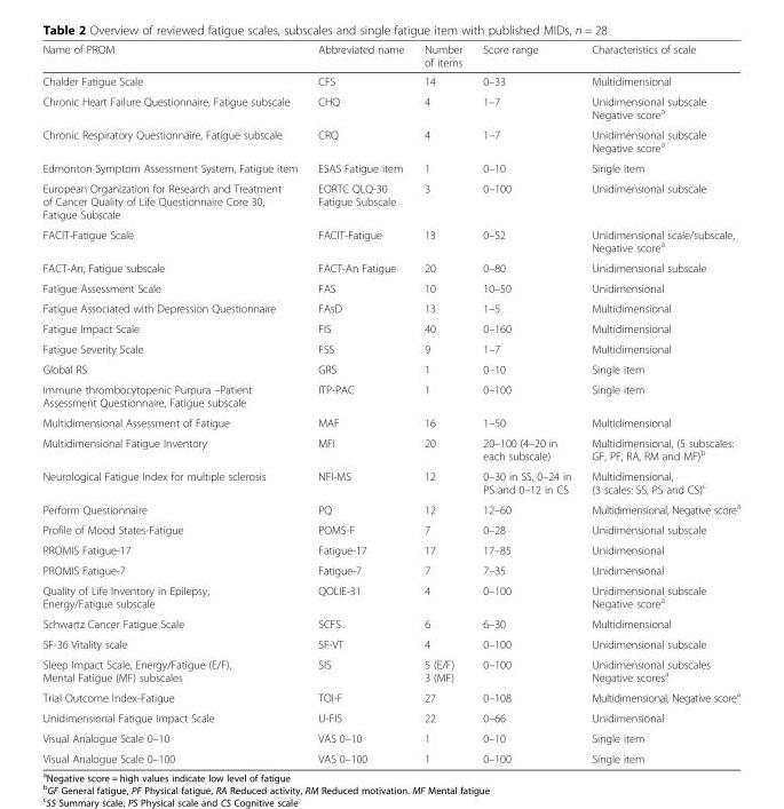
<table><thead><tr><td>Name of PROM</td><td>Abbreviated name</td><td>Number of items</td><td>Score range</td><td>Characteristics of scale</td></tr></thead><tbody><tr><td>Chalder Fatigue Scale</td><td>CFS</td><td>14</td><td>0–33</td><td>Multidimensional</td></tr><tr><td>Chronic Heart Failure Questionnaire, Fatigue subscale</td><td>CHQ</td><td>4</td><td>1–7</td><td>Unidimensional subscale Negative score<sup>a</sup></td></tr><tr><td>Chronic Respiratory Questionnaire, Fatigue subscale</td><td>CRQ</td><td>4</td><td>1–7</td><td>Unidimensional subscale Negative score<sup>a</sup></td></tr><tr><td>Edmonton Symptom Assessment System, Fatigue item</td><td>ESAS Fatigue item</td><td>1</td><td>0–10</td><td>Single item</td></tr><tr><td>European Organization for Research and Treatment of Cancer Quality of Life Questionnaire Core 30, Fatigue Subscale</td><td>EORTC QLQ-30 Fatigue Subscale</td><td>3</td><td>0–100</td><td>Unidimensional subscale</td></tr><tr><td>FACIT-Fatigue Scale</td><td>FACIT-Fatigue</td><td>13</td><td>0–52</td><td>Unidimensional scale/subscale, Negative score<sup>a</sup></td></tr><tr><td>FACT-An, Fatigue subscale</td><td>FACT-An Fatigue</td><td>20</td><td>0–80</td><td>Unidimensional subscale</td></tr><tr><td>Fatigue Assessment Scale</td><td>FAS</td><td>10</td><td>10–50</td><td>Unidimensional</td></tr><tr><td>Fatigue Associated with Depression Questionnaire</td><td>FAsD</td><td>13</td><td>1–5</td><td>Multidimensional</td></tr><tr><td>Fatigue Impact Scale</td><td>FIS</td><td>40</td><td>0–160</td><td>Multidimensional</td></tr><tr><td>Fatigue Severity Scale</td><td>FSS</td><td>9</td><td>1–7</td><td>Multidimensional</td></tr><tr><td>Global RS</td><td>GRS</td><td>1</td><td>0–10</td><td>Single item</td></tr><tr><td>Immune thrombocytopenic Purpura –Patient Assessment Questionnaire, Fatigue subscale</td><td>ITP-PAC</td><td>1</td><td>0–100</td><td>Single item</td></tr><tr><td>Multidimensional Assessment of Fatigue</td><td>MAF</td><td>16</td><td>1–50</td><td>Multidimensional</td></tr><tr><td>Multidimensional Fatigue Inventory</td><td>MFI</td><td>20</td><td>20–100 (4–20 in each subscale)</td><td>Multidimensional, (5 subscales: GF, PF, RA, RM and MF)<sup>b</sup></td></tr><tr><td>Neurological Fatigue Index for multiple sclerosis</td><td>NFI-MS</td><td>12</td><td>0–30 in SS, 0–24 in PS and 0–12 in CS</td><td>Multidimensional, (3 scales: SS, PS and CS)<sup>c</sup></td></tr><tr><td>Perform Questionnaire</td><td>PQ</td><td>12</td><td>12–60</td><td>Multidimensional, Negative score<sup>a</sup></td></tr><tr><td>Profile of Mood States-Fatigue</td><td>POMS-F</td><td>7</td><td>0–28</td><td>Unidimensional subscale</td></tr><tr><td>PROMIS Fatigue-17</td><td>Fatigue-17</td><td>17</td><td>17–85</td><td>Unidimensional</td></tr><tr><td>PROMIS Fatigue-7</td><td>Fatigue-7</td><td>7</td><td>7–35</td><td>Unidimensional</td></tr><tr><td>Quality of Life Inventory in Epilepsy, Energy/Fatigue subscale</td><td>QOLIE-31</td><td>4</td><td>0–100</td><td>Unidimensional subscale Negative score<sup>a</sup></td></tr><tr><td>Schwartz Cancer Fatigue Scale</td><td>SCFS</td><td>6</td><td>6–30</td><td>Multidimensional</td></tr><tr><td>SF-36 Vitality scale</td><td>SF-VT</td><td>4</td><td>0–100</td><td>Unidimensional subscale</td></tr><tr><td>Sleep Impact Scale, Energy/Fatigue (E/F), Mental Fatigue (MF) subscales</td><td>SIS</td><td>5 (E/F) 3 (MF)</td><td>0–100</td><td>Unidimensional subscales Negative scores<sup>a</sup></td></tr><tr><td>Trial Outcome Index-Fatigue</td><td>TOI-F</td><td>27</td><td>0–108</td><td>Multidimensional, Negative score<sup>a</sup></td></tr><tr><td>Unidimensional Fatigue Impact Scale</td><td>U-FIS</td><td>22</td><td>0–66</td><td>Unidimensional</td></tr><tr><td>Visual Analogue Scale 0–10</td><td>VAS 0–10</td><td>1</td><td>0–10</td><td>Single item</td></tr><tr><td>Visual Analogue Scale 0–100</td><td>VAS 0–100</td><td>1</td><td>0–100</td><td>Single item</td></tr></tbody></table>